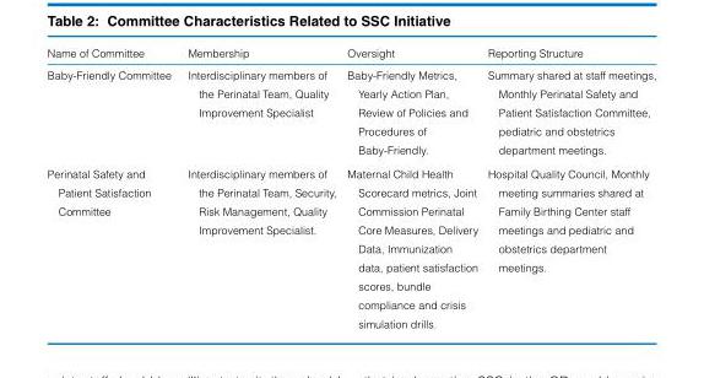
<table><thead><tr><td>Name of Committee</td><td>Membership</td><td>Oversight</td><td>Reporting Structure</td></tr></thead><tbody><tr><td>Baby-Friendly Committee</td><td>Interdisciplinary members of the Perinatal Team, Quality Improvement Specialist</td><td>Baby-Friendly Metrics, Yearly Action Plan, Review of Policies and Procedures of Baby-Friendly.</td><td>Summary shared at staff meetings, Monthly Perinatal Safety and Patient Satisfaction Committee, pediatric and obstetrics department meetings.</td></tr><tr><td>Perinatal Safety and Patient Satisfaction Committee</td><td>Interdisciplinary members of the Perinatal Team, Security, Risk Management, Quality Improvement Specialist.</td><td>Maternal Child Health Scorecard metrics, Joint Commission Perinatal Core Measures, Delivery Data, Immunization data, patient satisfaction scores, bundle compliance and crisis simulation drills.</td><td>Hospital Quality Council, Monthly meeting summaries shared at Family Birthing Center staff meetings and pediatric and obstetrics department meetings.</td></tr></tbody></table>